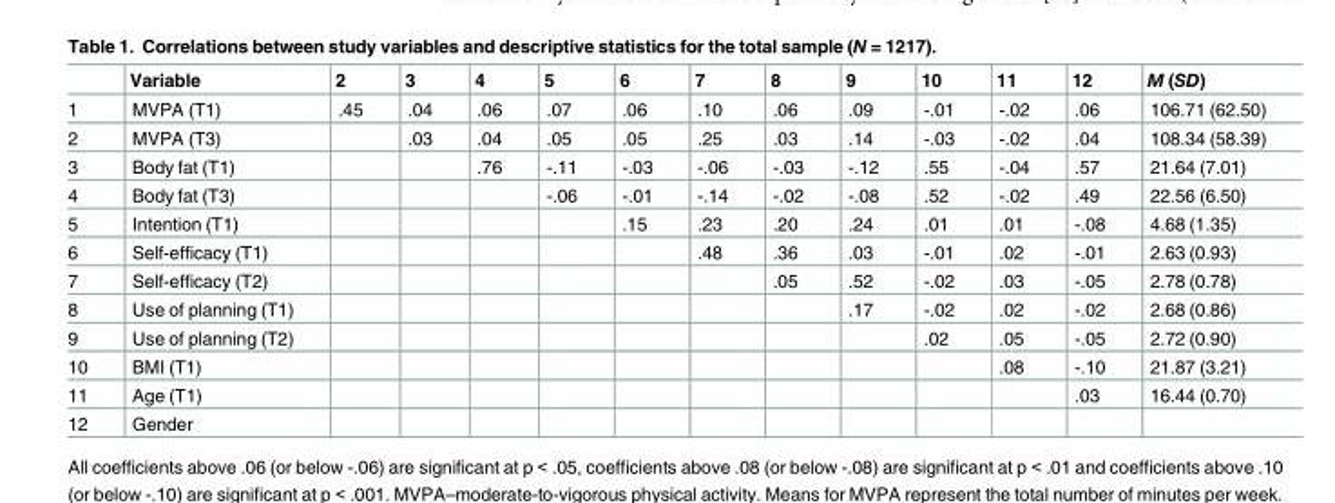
<table><thead><tr><td></td><td>Variable</td><td>2</td><td>3</td><td>4</td><td>5</td><td>6</td><td>7</td><td>8</td><td>9</td><td>10</td><td>11</td><td>12</td><td>M (SD)</td></tr></thead><tbody><tr><td>1</td><td>MVPA (T1)</td><td>.45</td><td>.04</td><td>.06</td><td>.07</td><td>.06</td><td>.10</td><td>.06</td><td>.09</td><td>-.01</td><td>-.02</td><td>.06</td><td>106.71 (62.50)</td></tr><tr><td>2</td><td>MVPA (T3)</td><td></td><td>.03</td><td>.04</td><td>.05</td><td>.05</td><td>.25</td><td>.03</td><td>.14</td><td>-.03</td><td>-.02</td><td>.04</td><td>108.34 (58.39)</td></tr><tr><td>3</td><td>Body fat (T1)</td><td></td><td></td><td>.76</td><td>-.11</td><td>-.03</td><td>-.06</td><td>-.03</td><td>-.12</td><td>.55</td><td>-.04</td><td>.57</td><td>21.64 (7.01)</td></tr><tr><td>4</td><td>Body fat (T3)</td><td></td><td></td><td></td><td>-.06</td><td>-.01</td><td>-.14</td><td>-.02</td><td>-.08</td><td>.52</td><td>-.02</td><td>.49</td><td>22.56 (6.50)</td></tr><tr><td>5</td><td>Intention (T1)</td><td></td><td></td><td></td><td></td><td>.15</td><td>.23</td><td>.20</td><td>.24</td><td>.01</td><td>.01</td><td>-.08</td><td>4.68 (1.35)</td></tr><tr><td>6</td><td>Self-efficacy (T1)</td><td></td><td></td><td></td><td></td><td></td><td>.48</td><td>.36</td><td>.03</td><td>-.01</td><td>.02</td><td>-.01</td><td>2.63 (0.93)</td></tr><tr><td>7</td><td>Self-efficacy (T2)</td><td></td><td></td><td></td><td></td><td></td><td></td><td>.05</td><td>.52</td><td>-.02</td><td>.03</td><td>-.05</td><td>2.78 (0.78)</td></tr><tr><td>8</td><td>Use of planning (T1)</td><td></td><td></td><td></td><td></td><td></td><td></td><td></td><td>.17</td><td>-.02</td><td>.02</td><td>-.02</td><td>2.68 (0.86)</td></tr><tr><td>9</td><td>Use of planning (T2)</td><td></td><td></td><td></td><td></td><td></td><td></td><td></td><td></td><td>.02</td><td>.05</td><td>-.05</td><td>2.72 (0.90)</td></tr><tr><td>10</td><td>BMI (T1)</td><td></td><td></td><td></td><td></td><td></td><td></td><td></td><td></td><td></td><td>.08</td><td>-.10</td><td>21.87 (3.21)</td></tr><tr><td>11</td><td>Age (T1)</td><td></td><td></td><td></td><td></td><td></td><td></td><td></td><td></td><td></td><td></td><td>.03</td><td>16.44 (0.70)</td></tr><tr><td>12</td><td>Gender</td><td></td><td></td><td></td><td></td><td></td><td></td><td></td><td></td><td></td><td></td><td></td><td></td></tr></tbody></table>